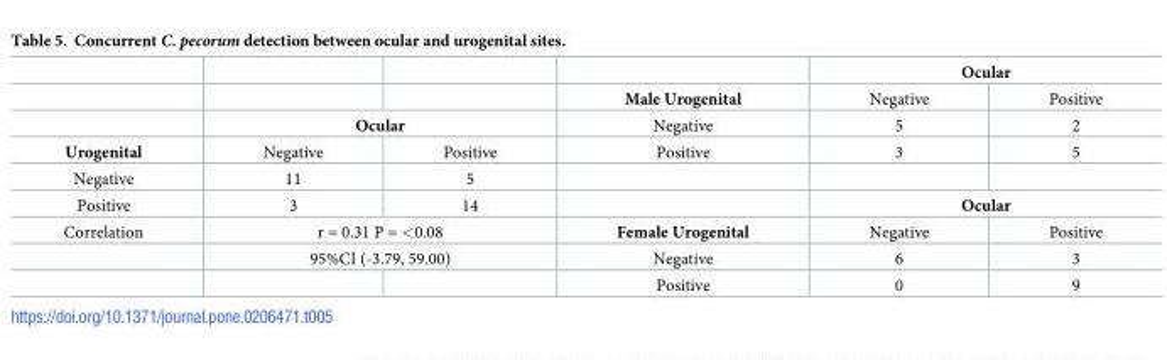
<table><thead><tr><td rowspan="2"></td><td rowspan="2"></td><td rowspan="2"></td><td rowspan="2">Male Urogenital</td><td colspan="2">Ocular</td></tr><tr><td>Negative</td><td>Positive</td></tr></thead><tbody><tr><td></td><td colspan="2">Ocular</td><td>Negative</td><td>5</td><td>2</td></tr><tr><td>Urogenital</td><td>Negative</td><td>Positive</td><td>Positive</td><td>3</td><td>5</td></tr><tr><td>Negative</td><td>11</td><td>5</td><td></td><td></td><td></td></tr><tr><td>Positive</td><td>3</td><td>14</td><td></td><td colspan="2">Ocular</td></tr><tr><td rowspan="3">Correlation</td><td colspan="2">r = 0.31 P = &lt;0.08</td><td>Female Urogenital</td><td>Negative</td><td>Positive</td></tr><tr><td colspan="2">95%CI (-3.79, 59.00)</td><td>Negative</td><td>6</td><td>3</td></tr><tr><td></td><td></td><td>Positive</td><td>0</td><td>9</td></tr></tbody></table>